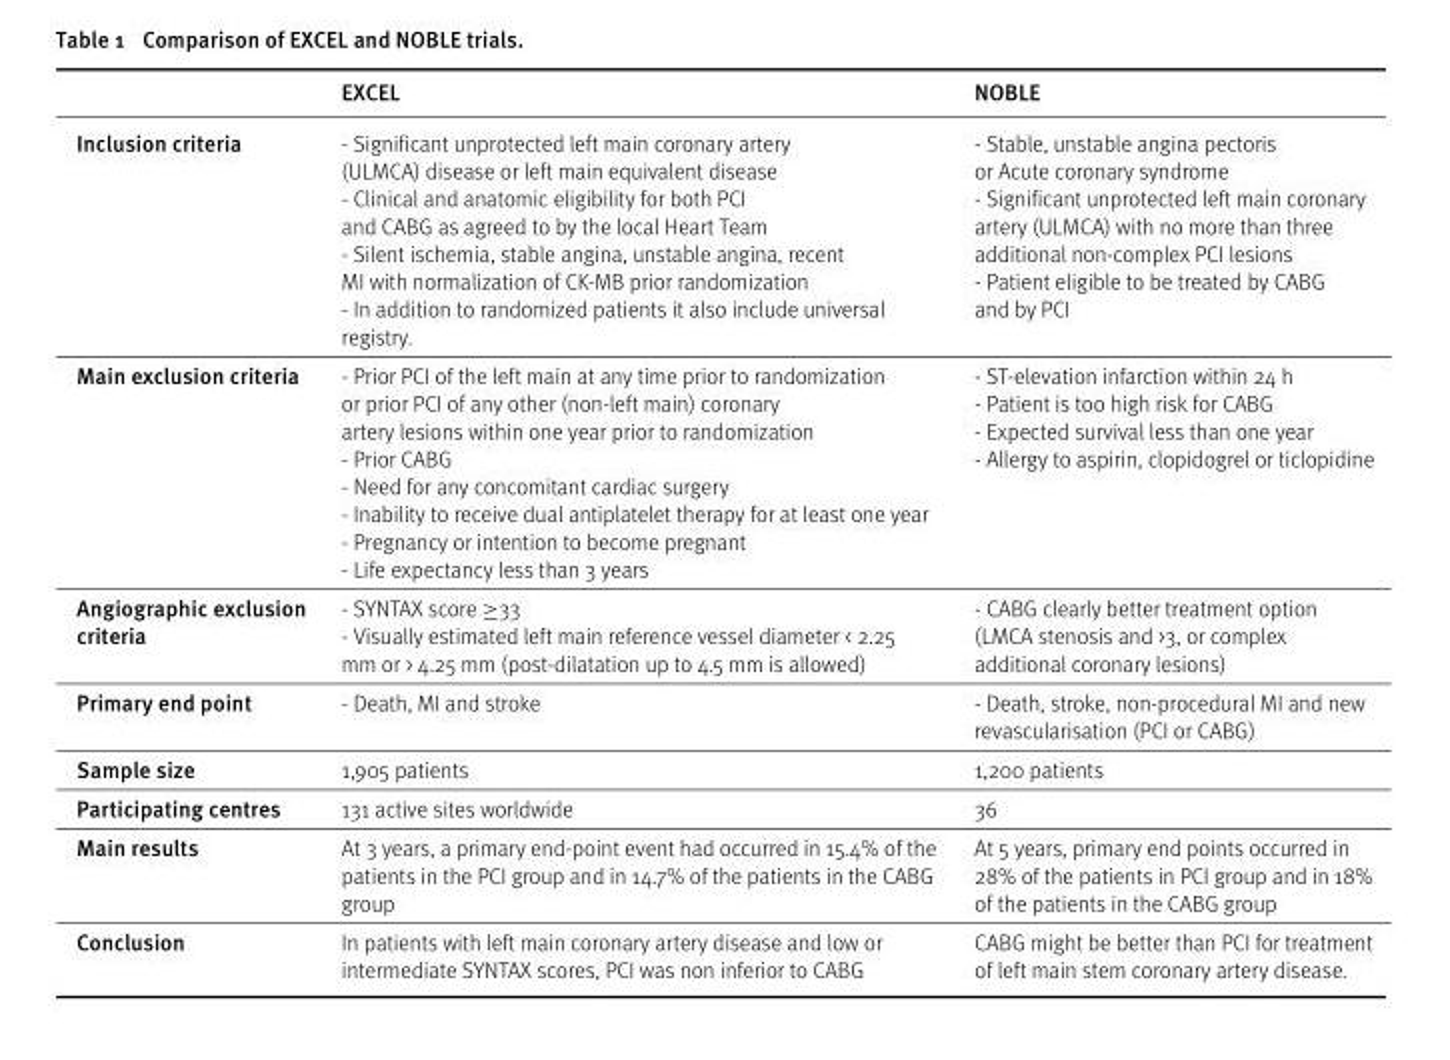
<table><thead><tr><td></td><td>EXCEL</td><td>NOBLE</td></tr></thead><tbody><tr><td>Inclusion criteria</td><td>- Significant unprotected left main coronary artery (ULMCA) disease or left main equivalent disease - Clinical and anatomic eligibility for both PCI and CABG as agreed to by the local Heart Team - Silent ischemia, stable angina, unstable angina, recent MI with normalization of CK-MB prior randomization - In addition to randomized patients it also include universal registry.</td><td>- Stable, unstable angina pectoris or Acute coronary syndrome - Significant unprotected left main coronary artery (ULMCA) with no more than three additional non-complex PCI lesions - Patient eligible to be treated by CABG and by PCI</td></tr><tr><td>Main exclusion criteria</td><td>- Prior PCI of the left main at any time prior to randomization or prior PCI of any other (non-left main) coronary artery lesions within one year prior to randomization - Prior CABG - Need for any concomitant cardiac surgery - Inability to receive dual antiplatelet therapy for at least one year - Pregnancy or intention to become pregnant - Life expectancy less than 3 years</td><td>- ST-elevation infarction within 24 h - Patient is too high risk for CABG - Expected survival less than one year - Allergy to aspirin, clopidogrel or ticlopidine</td></tr><tr><td>Angiographic exclusion criteria</td><td>- SYNTAX score ≥33 - Visually estimated left main reference vessel diameter &lt; 2.25 mm or &gt; 4.25 mm (post-dilatation up to 4.5 mm is allowed)</td><td>- CABG clearly better treatment option (LMCA stenosis and &gt;3, or complex additional coronary lesions)</td></tr><tr><td>Primary end point</td><td>- Death, MI and stroke</td><td>- Death, stroke, non-procedural MI and new revascularisation (PCI or CABG)</td></tr><tr><td>Sample size</td><td>1,905 patients</td><td>1,200 patients</td></tr><tr><td>Participating centres</td><td>131 active sites worldwide</td><td>36</td></tr><tr><td>Main results</td><td>At 3 years, a primary end-point event had occurred in 15.4% of the patients in the PCI group and in 14.7% of the patients in the CABG group</td><td>At 5 years, primary end points occurred in 28% of the patients in PCI group and in 18% of the patients in the CABG group</td></tr><tr><td>Conclusion</td><td>In patients with left main coronary artery disease and low or intermediate SYNTAX scores, PCI was non inferior to CABG</td><td>CABG might be better than PCI for treatment of left main stem coronary artery disease.</td></tr></tbody></table>